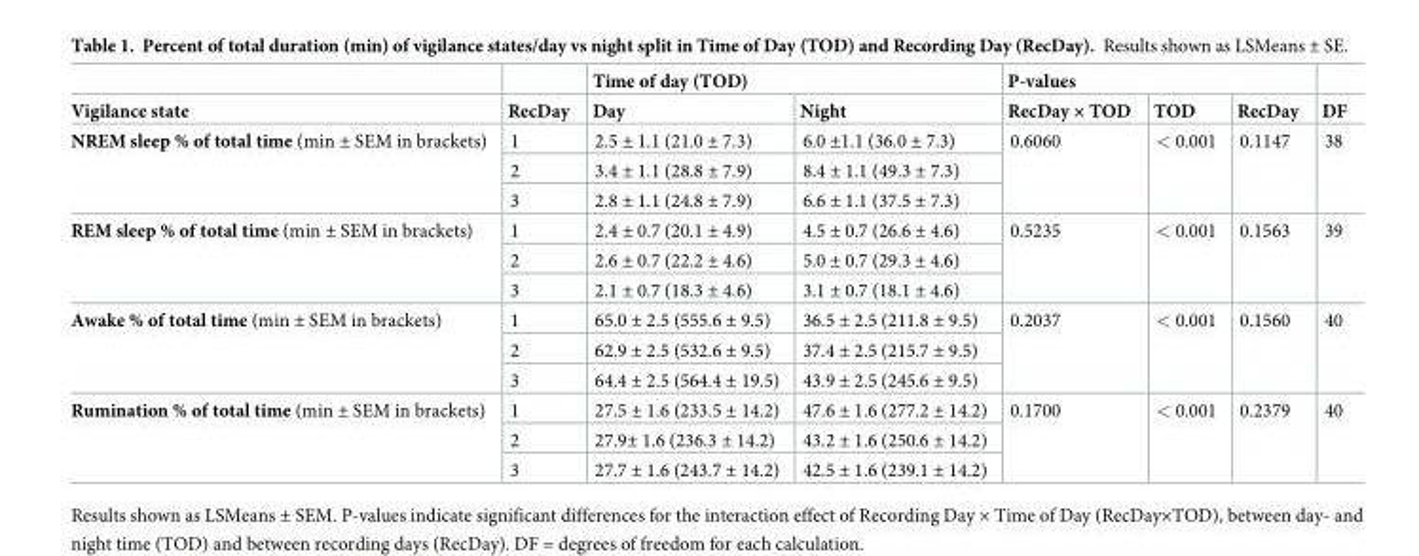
<table><thead><tr><td rowspan="2">Vigilance state</td><td rowspan="2">RecDay</td><td colspan="2">Time of day (TOD)</td><td colspan="3">P-values</td><td rowspan="2">DF</td></tr><tr><td>Day</td><td>Night</td><td>RecDay × TOD</td><td>TOD</td><td>RecDay</td></tr></thead><tbody><tr><td rowspan="3">NREM sleep % of total time (min ± SEM in brackets)</td><td>1</td><td>2.5 ± 1.1 (21.0 ± 7.3)</td><td>6.0 ±1.1 (36.0 ± 7.3)</td><td rowspan="3">0.6060</td><td rowspan="3">&lt; 0.001</td><td rowspan="3">0.1147</td><td rowspan="3">38</td></tr><tr><td>2</td><td>3.4 ± 1.1 (28.8 ± 7.9)</td><td>8.4 ± 1.1 (49.3 ± 7.3)</td></tr><tr><td>3</td><td>2.8 ± 1.1 (24.8 ± 7.9)</td><td>6.6 ± 1.1 (37.5 ± 7.3)</td></tr><tr><td rowspan="3">REM sleep % of total time (min ± SEM in brackets)</td><td>1</td><td>2.4 ± 0.7 (20.1 ± 4.9)</td><td>4.5 ± 0.7 (26.6 ± 4.6)</td><td rowspan="3">0.5235</td><td rowspan="3">&lt; 0.001</td><td rowspan="3">0.1563</td><td rowspan="3">39</td></tr><tr><td>2</td><td>2.6 ± 0.7 (22.2 ± 4.6)</td><td>5.0 ± 0.7 (29.3 ± 4.6)</td></tr><tr><td>3</td><td>2.1 ± 0.7 (18.3 ± 4.6)</td><td>3.1 ± 0.7 (18.1 ± 4.6)</td></tr><tr><td rowspan="3">Awake % of total time (min ± SEM in brackets)</td><td>1</td><td>65.0 ± 2.5 (555.6 ± 9.5)</td><td>36.5 ± 2.5 (211.8 ± 9.5)</td><td rowspan="3">0.2037</td><td rowspan="3">&lt; 0.001</td><td rowspan="3">0.1560</td><td rowspan="3">40</td></tr><tr><td>2</td><td>62.9 ± 2.5 (532.6 ± 9.5)</td><td>37.4 ± 2.5 (215.7 ± 9.5)</td></tr><tr><td>3</td><td>64.4 ± 2.5 (564.4 ± 19.5)</td><td>43.9 ± 2.5 (245.6 ± 9.5)</td></tr><tr><td rowspan="3">Rumination % of total time (min ± SEM in brackets)</td><td>1</td><td>27.5 ± 1.6 (233.5 ± 14.2)</td><td>47.6 ± 1.6 (277.2 ± 14.2)</td><td rowspan="3">0.1700</td><td rowspan="3">&lt; 0.001</td><td rowspan="3">0.2379</td><td rowspan="3">40</td></tr><tr><td>2</td><td>27.9± 1.6 (236.3 ± 14.2)</td><td>43.2 ± 1.6 (250.6 ± 14.2)</td></tr><tr><td>3</td><td>27.7 ± 1.6 (243.7 ± 14.2)</td><td>42.5 ± 1.6 (239.1 ± 14.2)</td></tr></tbody></table>